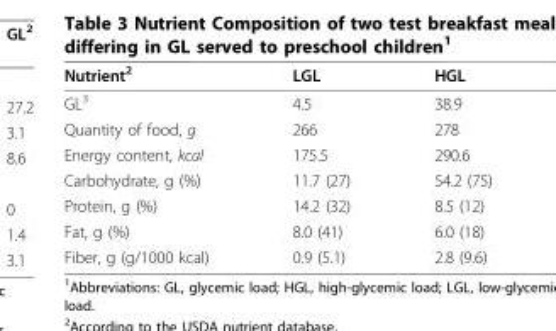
<table><thead><tr><td>Nutrient<sup>2</sup></td><td>LGL</td><td>HGL</td></tr></thead><tbody><tr><td>GL<sup>3</sup></td><td>4.5</td><td>38.9</td></tr><tr><td>Quantity of food, g</td><td>266</td><td>278</td></tr><tr><td>Energy content, kcal</td><td>175.5</td><td>290.6</td></tr><tr><td>Carbohydrate, g (%)</td><td>11.7 (27)</td><td>54.2 (75)</td></tr><tr><td>Protein, g (%)</td><td>14.2 (32)</td><td>8.5 (12)</td></tr><tr><td>Fat, g (%)</td><td>8.0 (41)</td><td>6.0 (18)</td></tr><tr><td>Fiber, g (g/1000 kcal)</td><td>0.9 (5.1)</td><td>2.8 (9.6)</td></tr></tbody></table>